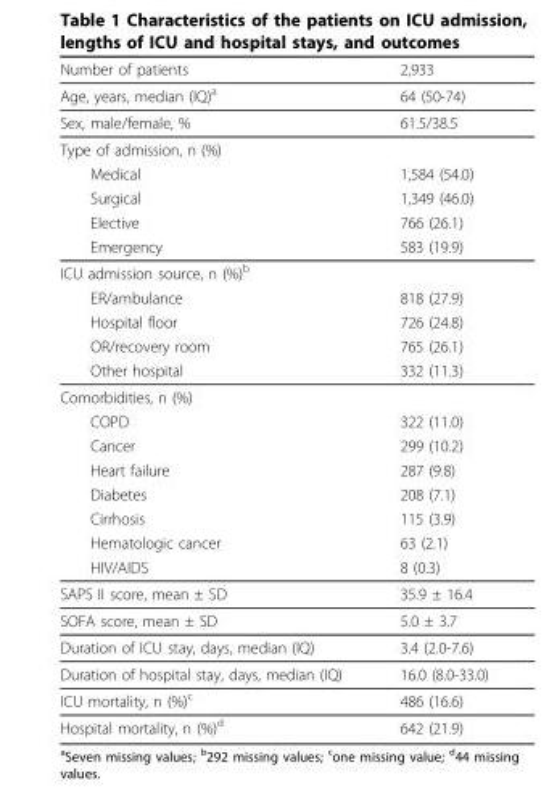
<table><thead><tr><td>Number of patients</td><td>2,933</td></tr></thead><tbody><tr><td>Age, years, median (IQ)<sup>a</sup></td><td>64 (50-74)</td></tr><tr><td>Sex, male/female, %</td><td>61.5/38.5</td></tr><tr><td colspan="2">Type of admission, n (%)</td></tr><tr><td>Medical</td><td>1,584 (54.0)</td></tr><tr><td>Surgical</td><td>1,349 (46.0)</td></tr><tr><td>Elective</td><td>766 (26.1)</td></tr><tr><td>Emergency</td><td>583 (19.9)</td></tr><tr><td colspan="2">ICU admission source, n (%)<sup>b</sup></td></tr><tr><td>ER/ambulance</td><td>818 (27.9)</td></tr><tr><td>Hospital floor</td><td>726 (24.8)</td></tr><tr><td>OR/recovery room</td><td>765 (26.1)</td></tr><tr><td>Other hospital</td><td>332 (11.3)</td></tr><tr><td colspan="2">Comorbidities, n (%)</td></tr><tr><td>COPD</td><td>322 (11.0)</td></tr><tr><td>Cancer</td><td>299 (10.2)</td></tr><tr><td>Heart failure</td><td>287 (9.8)</td></tr><tr><td>Diabetes</td><td>208 (7.1)</td></tr><tr><td>Cirrhosis</td><td>115 (3.9)</td></tr><tr><td>Hematologic cancer</td><td>63 (2.1)</td></tr><tr><td>HIV/AIDS</td><td>8 (0.3)</td></tr><tr><td>SAPS II score, mean ± SD</td><td>35.9 ± 16.4</td></tr><tr><td>SOFA score, mean ± SD</td><td>5.0 ± 3.7</td></tr><tr><td>Duration of ICU stay, days, median (IQ)</td><td>3.4 (2.0-7.6)</td></tr><tr><td>Duration of hospital stay, days, median (IQ)</td><td>16.0 (8.0-33.0)</td></tr><tr><td>ICU mortality, n (%)<sup>c</sup></td><td>486 (16.6)</td></tr><tr><td>Hospital mortality, n (%)<sup>d</sup></td><td>642 (21.9)</td></tr></tbody></table>